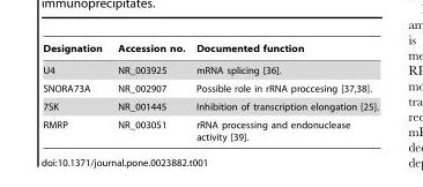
<table><thead><tr><td>Designation</td><td>Accession no.</td><td>Documented function</td></tr></thead><tbody><tr><td>U4</td><td>NR_003925</td><td>mRNA splicing [36].</td></tr><tr><td>SNORA73A</td><td>NR_002907</td><td>Possible role in rRNA proccesing [37,38].</td></tr><tr><td>7SK</td><td>NR_001445</td><td>Inhibition of transcription elongation [25].</td></tr><tr><td>RMRP</td><td>NR_003051</td><td>rRNA processing and endonuclease activity [39].</td></tr></tbody></table>